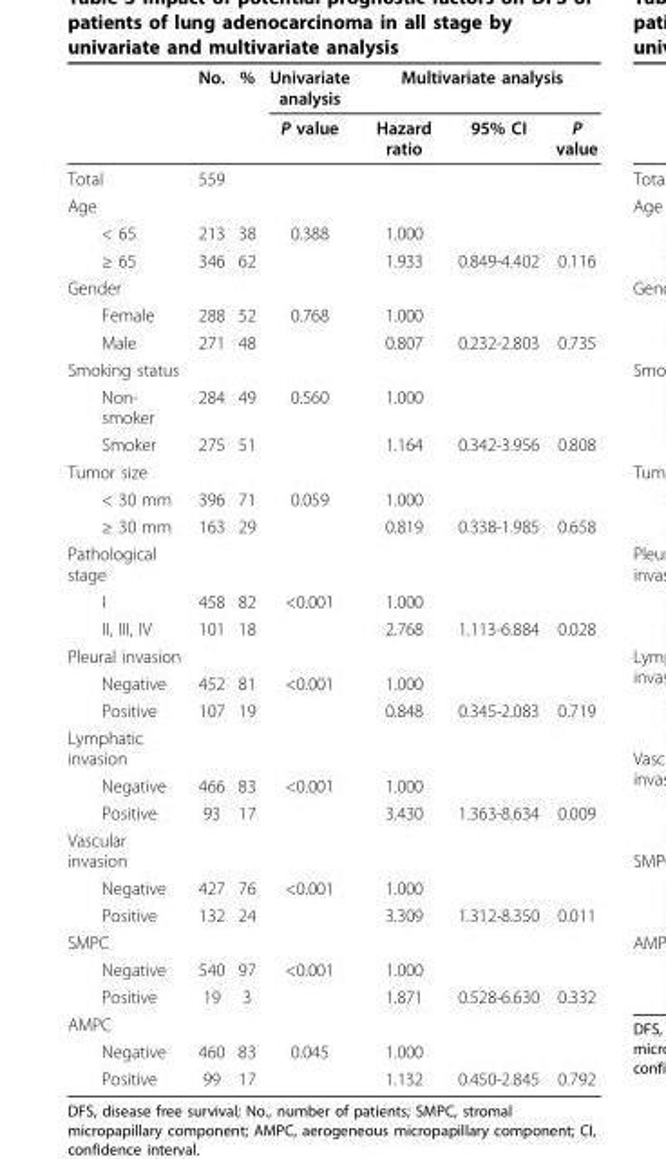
<table><thead><tr><td rowspan="2"></td><td rowspan="2">No.</td><td rowspan="2">%</td><td rowspan="2">Univariate analysis P value</td><td colspan="3">Multivariate analysis</td></tr><tr><td>Hazard ratio</td><td>95% CI</td><td>P value</td></tr></thead><tbody><tr><td>Total</td><td>559</td><td></td><td></td><td></td><td></td><td></td></tr><tr><td colspan="7">Age</td></tr><tr><td>&lt; 65</td><td>213</td><td>38</td><td>0.388</td><td>1.000</td><td></td><td></td></tr><tr><td>≥ 65</td><td>346</td><td>62</td><td></td><td>1.933</td><td>0.849-4.402</td><td>0.116</td></tr><tr><td colspan="7">Gender</td></tr><tr><td>Female</td><td>288</td><td>52</td><td>0.768</td><td>1.000</td><td></td><td></td></tr><tr><td>Male</td><td>271</td><td>48</td><td></td><td>0.807</td><td>0.232-2.803</td><td>0.735</td></tr><tr><td colspan="7">Smoking status</td></tr><tr><td>Non- smoker</td><td>284</td><td>49</td><td>0.560</td><td>1.000</td><td></td><td></td></tr><tr><td>Smoker</td><td>275</td><td>51</td><td></td><td>1.164</td><td>0.342-3.956</td><td>0.808</td></tr><tr><td colspan="7">Tumor size</td></tr><tr><td>&lt; 30 mm</td><td>396</td><td>71</td><td>0.059</td><td>1.000</td><td></td><td></td></tr><tr><td>≥ 30 mm</td><td>163</td><td>29</td><td></td><td>0.819</td><td>0.338-1.985</td><td>0.658</td></tr><tr><td colspan="7">Pathological stage</td></tr><tr><td>I</td><td>458</td><td>82</td><td>&lt;0.001</td><td>1.000</td><td></td><td></td></tr><tr><td>II, III, IV</td><td>101</td><td>18</td><td></td><td>2.768</td><td>1.113-6.884</td><td>0.028</td></tr><tr><td colspan="7">Pleural invasion</td></tr><tr><td>Negative</td><td>452</td><td>81</td><td>&lt;0.001</td><td>1.000</td><td></td><td></td></tr><tr><td>Positive</td><td>107</td><td>19</td><td></td><td>0.848</td><td>0.345-2.083</td><td>0.719</td></tr><tr><td colspan="7">Lymphatic invasion</td></tr><tr><td>Negative</td><td>466</td><td>83</td><td>&lt;0.001</td><td>1.000</td><td></td><td></td></tr><tr><td>Positive</td><td>93</td><td>17</td><td></td><td>3.430</td><td>1.363-8.634</td><td>0.009</td></tr><tr><td colspan="7">Vascular invasion</td></tr><tr><td>Negative</td><td>427</td><td>76</td><td>&lt;0.001</td><td>1.000</td><td></td><td></td></tr><tr><td>Positive</td><td>132</td><td>24</td><td></td><td>3.309</td><td>1.312-8.350</td><td>0.011</td></tr><tr><td colspan="7">SMPC</td></tr><tr><td>Negative</td><td>540</td><td>97</td><td>&lt;0.001</td><td>1.000</td><td></td><td></td></tr><tr><td>Positive</td><td>19</td><td>3</td><td></td><td>1.871</td><td>0.528-6.630</td><td>0.332</td></tr><tr><td colspan="7">AMPC</td></tr><tr><td>Negative</td><td>460</td><td>83</td><td>0.045</td><td>1.000</td><td></td><td></td></tr><tr><td>Positive</td><td>99</td><td>17</td><td></td><td>1.132</td><td>0.450-2.845</td><td>0.792</td></tr></tbody></table>